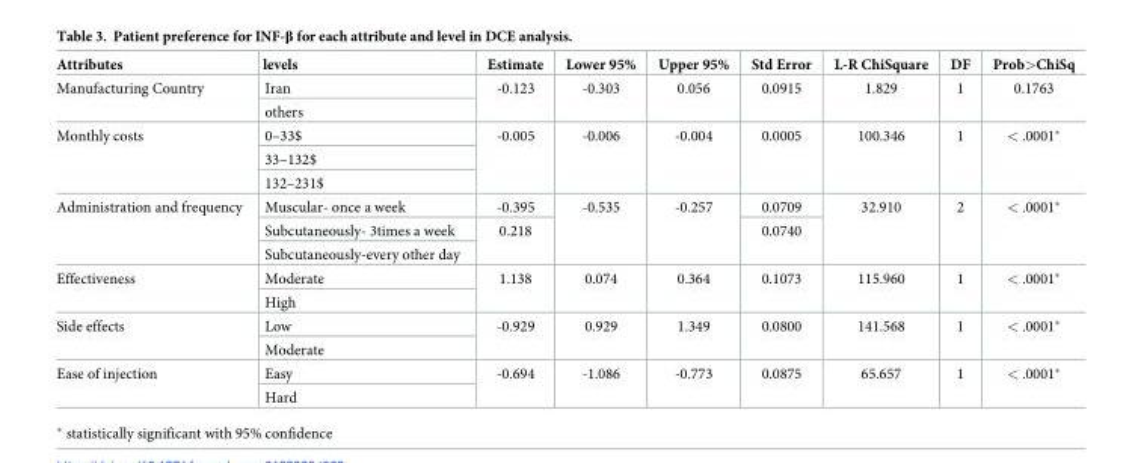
<table><thead><tr><td>Attributes</td><td>levels</td><td>Estimate</td><td>Lower 95%</td><td>Upper 95%</td><td>Std Error</td><td>L-R ChiSquare</td><td>DF</td><td>Prob&gt;ChiSq</td></tr></thead><tbody><tr><td rowspan="2">Manufacturing Country</td><td>Iran</td><td rowspan="2">-0.123</td><td rowspan="2">-0.303</td><td rowspan="2">0.056</td><td rowspan="2">0.0915</td><td rowspan="2">1.829</td><td rowspan="2">1</td><td rowspan="2">0.1763</td></tr><tr><td>others</td></tr><tr><td rowspan="3">Monthly costs</td><td>0–33$</td><td rowspan="3">-0.005</td><td rowspan="3">-0.006</td><td rowspan="3">-0.004</td><td rowspan="3">0.0005</td><td rowspan="3">100.346</td><td rowspan="3">1</td><td rowspan="3">&lt; .0001*</td></tr><tr><td>33–132$</td></tr><tr><td>132–231$</td></tr><tr><td rowspan="3">Administration and frequency</td><td>Muscular- once a week</td><td>-0.395</td><td rowspan="3">-0.535</td><td rowspan="3">-0.257</td><td>0.0709</td><td rowspan="3">32.910</td><td rowspan="3">2</td><td rowspan="3">&lt; .0001*</td></tr><tr><td>Subcutaneously- 3times a week</td><td rowspan="2">0.218</td><td rowspan="2">0.0740</td></tr><tr><td>Subcutaneously-every other day</td></tr><tr><td rowspan="2">Effectiveness</td><td>Moderate</td><td rowspan="2">1.138</td><td rowspan="2">0.074</td><td rowspan="2">0.364</td><td rowspan="2">0.1073</td><td rowspan="2">115.960</td><td rowspan="2">1</td><td rowspan="2">&lt; .0001*</td></tr><tr><td>High</td></tr><tr><td rowspan="2">Side effects</td><td>Low</td><td rowspan="2">-0.929</td><td rowspan="2">0.929</td><td rowspan="2">1.349</td><td rowspan="2">0.0800</td><td rowspan="2">141.568</td><td rowspan="2">1</td><td rowspan="2">&lt; .0001*</td></tr><tr><td>Moderate</td></tr><tr><td rowspan="2">Ease of injection</td><td>Easy</td><td rowspan="2">-0.694</td><td rowspan="2">-1.086</td><td rowspan="2">-0.773</td><td rowspan="2">0.0875</td><td rowspan="2">65.657</td><td rowspan="2">1</td><td rowspan="2">&lt; .0001*</td></tr><tr><td>Hard</td></tr></tbody></table>